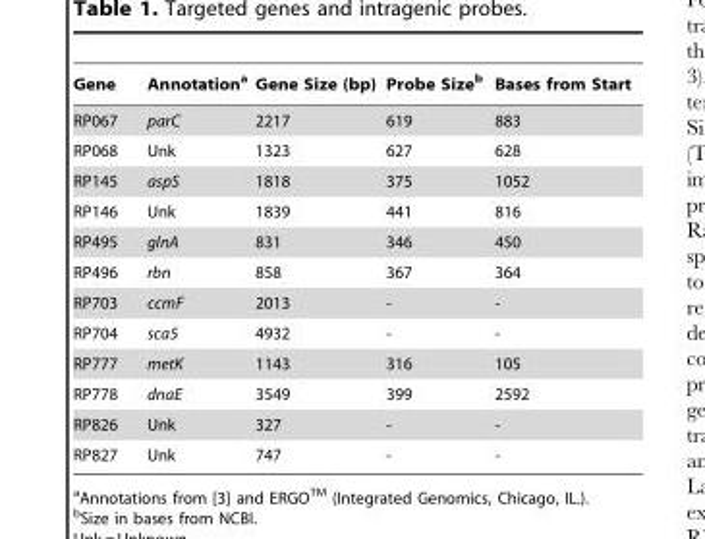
<table><thead><tr><td>Gene</td><td>Annotation<sup>a</sup></td><td>Gene Size (bp)</td><td>Probe Size<sup>b</sup></td><td>Bases from Start</td></tr></thead><tbody><tr><td>RP067</td><td>parC</td><td>2217</td><td>619</td><td>883</td></tr><tr><td>RP068</td><td>Unk</td><td>1323</td><td>627</td><td>628</td></tr><tr><td>RP145</td><td>aspS</td><td>1818</td><td>375</td><td>1052</td></tr><tr><td>RP146</td><td>Unk</td><td>1839</td><td>441</td><td>816</td></tr><tr><td>RP495</td><td>glnA</td><td>831</td><td>346</td><td>450</td></tr><tr><td>RP496</td><td>rbn</td><td>858</td><td>367</td><td>364</td></tr><tr><td>RP703</td><td>ccmF</td><td>2013</td><td>-</td><td>-</td></tr><tr><td>RP704</td><td>sca5</td><td>4932</td><td>-</td><td>-</td></tr><tr><td>RP777</td><td>metK</td><td>1143</td><td>316</td><td>105</td></tr><tr><td>RP778</td><td>dnaE</td><td>3549</td><td>399</td><td>2592</td></tr><tr><td>RP826</td><td>Unk</td><td>327</td><td>-</td><td>-</td></tr><tr><td>RP827</td><td>Unk</td><td>747</td><td>-</td><td>-</td></tr></tbody></table>